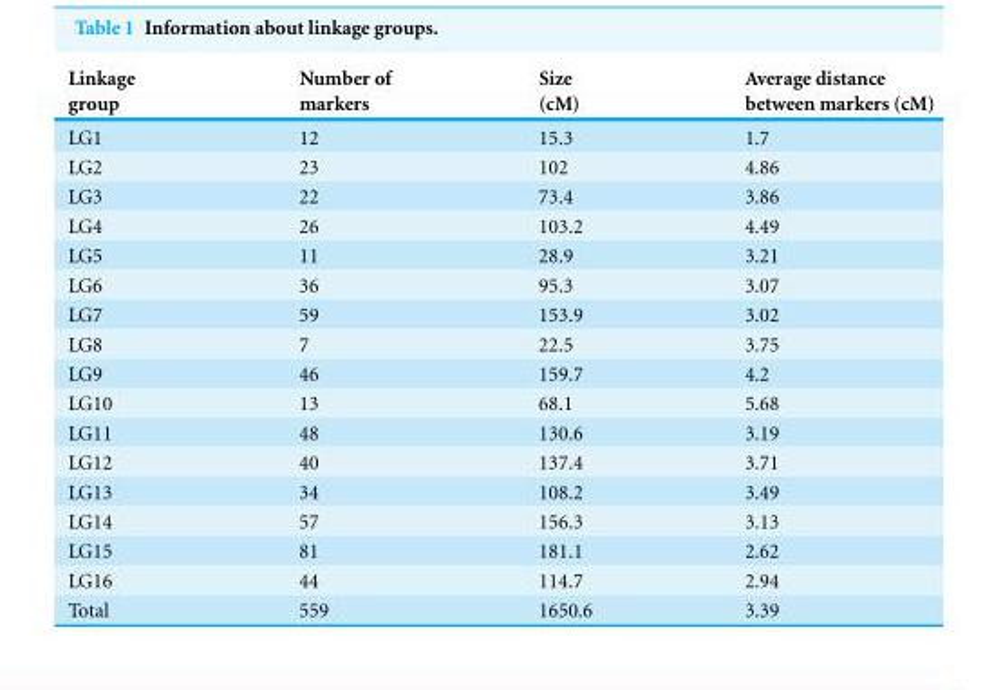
<table><thead><tr><td>Linkage group</td><td>Number of markers</td><td>Size (cM)</td><td>Average distance between markers (cM)</td></tr></thead><tbody><tr><td>LG1</td><td>12</td><td>15.3</td><td>1.7</td></tr><tr><td>LG2</td><td>23</td><td>102</td><td>4.86</td></tr><tr><td>LG3</td><td>22</td><td>73.4</td><td>3.86</td></tr><tr><td>LG4</td><td>26</td><td>103.2</td><td>4.49</td></tr><tr><td>LG5</td><td>11</td><td>28.9</td><td>3.21</td></tr><tr><td>LG6</td><td>36</td><td>95.3</td><td>3.07</td></tr><tr><td>LG7</td><td>59</td><td>153.9</td><td>3.02</td></tr><tr><td>LG8</td><td>7</td><td>22.5</td><td>3.75</td></tr><tr><td>LG9</td><td>46</td><td>159.7</td><td>4.2</td></tr><tr><td>LG10</td><td>13</td><td>68.1</td><td>5.68</td></tr><tr><td>LG11</td><td>48</td><td>130.6</td><td>3.19</td></tr><tr><td>LG12</td><td>40</td><td>137.4</td><td>3.71</td></tr><tr><td>LG13</td><td>34</td><td>108.2</td><td>3.49</td></tr><tr><td>LG14</td><td>57</td><td>156.3</td><td>3.13</td></tr><tr><td>LG15</td><td>81</td><td>181.1</td><td>2.62</td></tr><tr><td>LG16</td><td>44</td><td>114.7</td><td>2.94</td></tr><tr><td>Total</td><td>559</td><td>1650.6</td><td>3.39</td></tr></tbody></table>